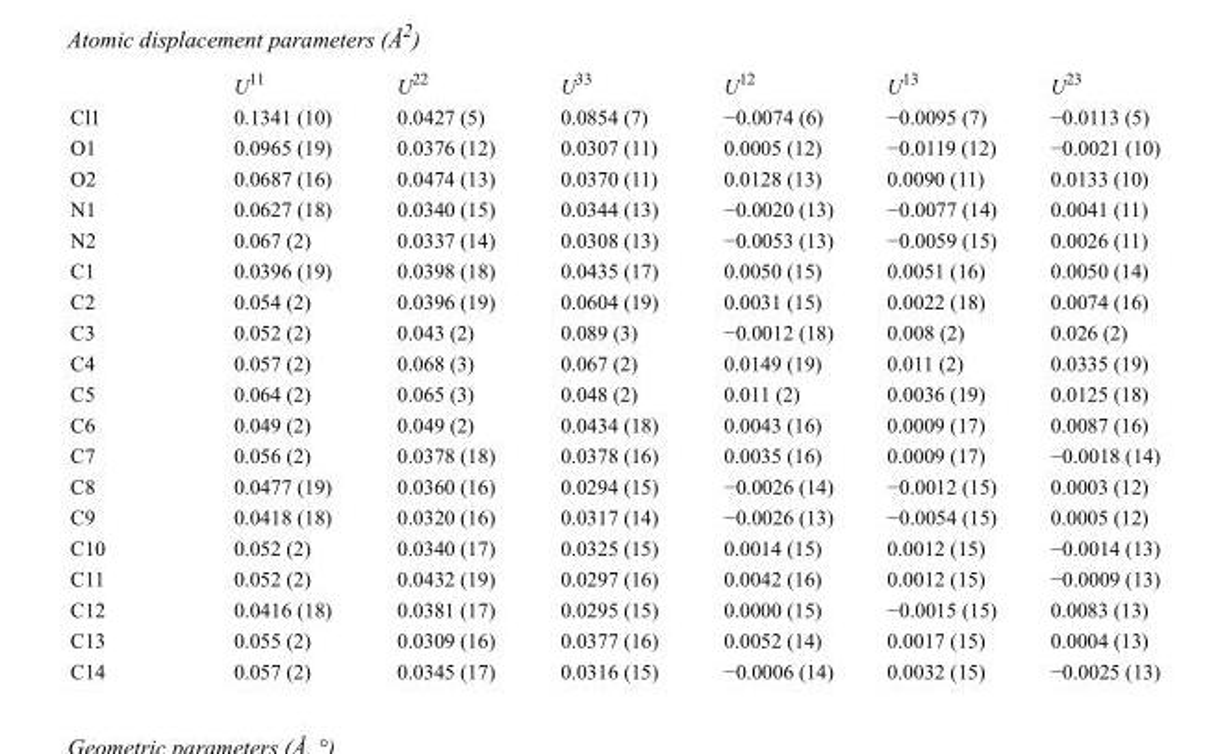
<table><thead><tr><td></td><td>U<sup>11</sup></td><td>U<sup>22</sup></td><td>U<sup>33</sup></td><td>U<sup>12</sup></td><td>U<sup>13</sup></td><td>U<sup>23</sup></td></tr></thead><tbody><tr><td>Cl1</td><td>0.1341 (10)</td><td>0.0427 (5)</td><td>0.0854 (7)</td><td>−0.0074 (6)</td><td>−0.0095 (7)</td><td>−0.0113 (5)</td></tr><tr><td>O1</td><td>0.0965 (19)</td><td>0.0376 (12)</td><td>0.0307 (11)</td><td>0.0005 (12)</td><td>−0.0119 (12)</td><td>−0.0021 (10)</td></tr><tr><td>O2</td><td>0.0687 (16)</td><td>0.0474 (13)</td><td>0.0370 (11)</td><td>0.0128 (13)</td><td>0.0090 (11)</td><td>0.0133 (10)</td></tr><tr><td>N1</td><td>0.0627 (18)</td><td>0.0340 (15)</td><td>0.0344 (13)</td><td>−0.0020 (13)</td><td>−0.0077 (14)</td><td>0.0041 (11)</td></tr><tr><td>N2</td><td>0.067 (2)</td><td>0.0337 (14)</td><td>0.0308 (13)</td><td>−0.0053 (13)</td><td>−0.0059 (15)</td><td>0.0026 (11)</td></tr><tr><td>C1</td><td>0.0396 (19)</td><td>0.0398 (18)</td><td>0.0435 (17)</td><td>0.0050 (15)</td><td>0.0051 (16)</td><td>0.0050 (14)</td></tr><tr><td>C2</td><td>0.054 (2)</td><td>0.0396 (19)</td><td>0.0604 (19)</td><td>0.0031 (15)</td><td>0.0022 (18)</td><td>0.0074 (16)</td></tr><tr><td>C3</td><td>0.052 (2)</td><td>0.043 (2)</td><td>0.089 (3)</td><td>−0.0012 (18)</td><td>0.008 (2)</td><td>0.026 (2)</td></tr><tr><td>C4</td><td>0.057 (2)</td><td>0.068 (3)</td><td>0.067 (2)</td><td>0.0149 (19)</td><td>0.011 (2)</td><td>0.0335 (19)</td></tr><tr><td>C5</td><td>0.064 (2)</td><td>0.065 (3)</td><td>0.048 (2)</td><td>0.011 (2)</td><td>0.0036 (19)</td><td>0.0125 (18)</td></tr><tr><td>C6</td><td>0.049 (2)</td><td>0.049 (2)</td><td>0.0434 (18)</td><td>0.0043 (16)</td><td>0.0009 (17)</td><td>0.0087 (16)</td></tr><tr><td>C7</td><td>0.056 (2)</td><td>0.0378 (18)</td><td>0.0378 (16)</td><td>0.0035 (16)</td><td>0.0009 (17)</td><td>−0.0018 (14)</td></tr><tr><td>C8</td><td>0.0477 (19)</td><td>0.0360 (16)</td><td>0.0294 (15)</td><td>−0.0026 (14)</td><td>−0.0012 (15)</td><td>0.0003 (12)</td></tr><tr><td>C9</td><td>0.0418 (18)</td><td>0.0320 (16)</td><td>0.0317 (14)</td><td>−0.0026 (13)</td><td>−0.0054 (15)</td><td>0.0005 (12)</td></tr><tr><td>C10</td><td>0.052 (2)</td><td>0.0340 (17)</td><td>0.0325 (15)</td><td>0.0014 (15)</td><td>0.0012 (15)</td><td>−0.0014 (13)</td></tr><tr><td>C11</td><td>0.052 (2)</td><td>0.0432 (19)</td><td>0.0297 (16)</td><td>0.0042 (16)</td><td>0.0012 (15)</td><td>−0.0009 (13)</td></tr><tr><td>C12</td><td>0.0416 (18)</td><td>0.0381 (17)</td><td>0.0295 (15)</td><td>0.0000 (15)</td><td>−0.0015 (15)</td><td>0.0083 (13)</td></tr><tr><td>C13</td><td>0.055 (2)</td><td>0.0309 (16)</td><td>0.0377 (16)</td><td>0.0052 (14)</td><td>0.0017 (15)</td><td>0.0004 (13)</td></tr><tr><td>C14</td><td>0.057 (2)</td><td>0.0345 (17)</td><td>0.0316 (15)</td><td>−0.0006 (14)</td><td>0.0032 (15)</td><td>−0.0025 (13)</td></tr></tbody></table>